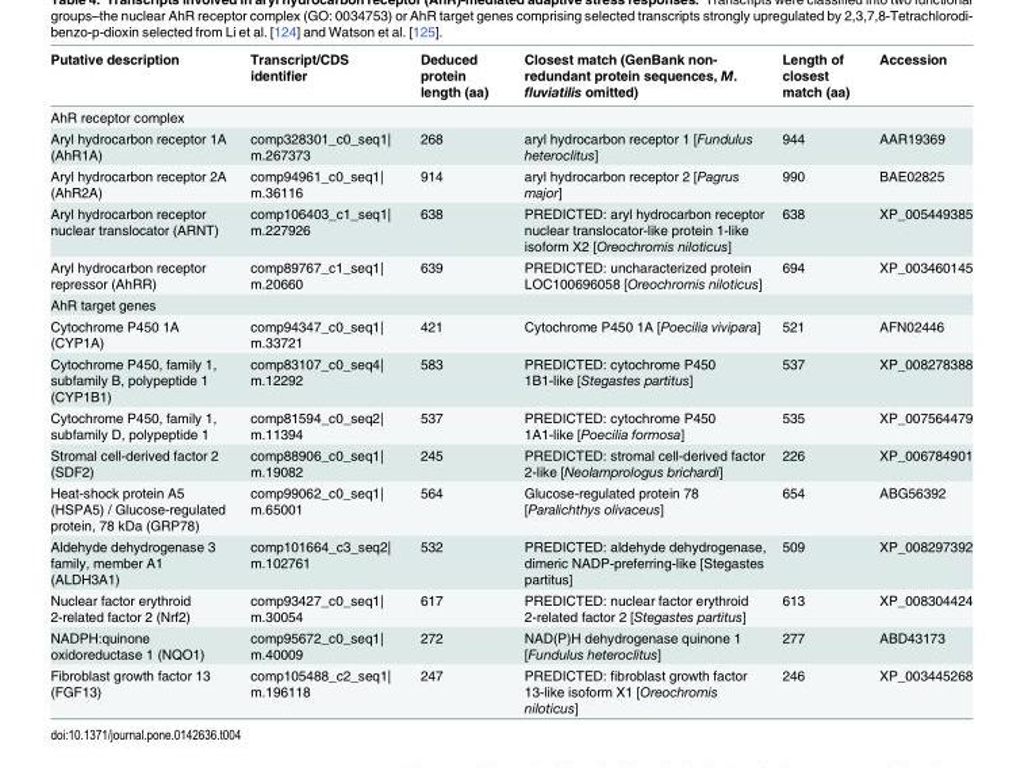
<table><thead><tr><td>Putative description</td><td>Transcript/CDS identifier</td><td>Deduced protein length (aa)</td><td>Closest match (GenBank non- redundant protein sequences, M. fluviatilis omitted)</td><td>Length of closest match (aa)</td><td>Accession</td></tr></thead><tbody><tr><td colspan="6">AhR receptor complex</td></tr><tr><td>Aryl hydrocarbon receptor 1A (AhR1A)</td><td>comp328301_c0_seq1| m.267373</td><td>268</td><td>aryl hydrocarbon receptor 1 [Fundulus heteroclitus]</td><td>944</td><td>AAR19369</td></tr><tr><td>Aryl hydrocarbon receptor 2A (AhR2A)</td><td>comp94961_c0_seq1| m.36116</td><td>914</td><td>aryl hydrocarbon receptor 2 [Pagrus major]</td><td>990</td><td>BAE02825</td></tr><tr><td>Aryl hydrocarbon receptor nuclear translocator (ARNT)</td><td>comp106403_c1_seq1| m.227926</td><td>638</td><td>PREDICTED: aryl hydrocarbon receptor nuclear translocator-like protein 1-like isoform X2 [Oreochromis niloticus]</td><td>638</td><td>XP_005449385</td></tr><tr><td>Aryl hydrocarbon receptor repressor (AhRR)</td><td>comp89767_c1_seq1| m.20660</td><td>639</td><td>PREDICTED: uncharacterized protein LOC100696058 [Oreochromis niloticus]</td><td>694</td><td>XP_003460145</td></tr><tr><td colspan="6">AhR target genes</td></tr><tr><td>Cytochrome P450 1A (CYP1A)</td><td>comp94347_c0_seq1| m.33721</td><td>421</td><td>Cytochrome P450 1A [Poecilia vivipara]</td><td>521</td><td>AFN02446</td></tr><tr><td>Cytochrome P450, family 1, subfamily B, polypeptide 1 (CYP1B1)</td><td>comp83107_c0_seq4| m.12292</td><td>583</td><td>PREDICTED: cytochrome P450 1B1-like [Stegastes partitus]</td><td>537</td><td>XP_008278388</td></tr><tr><td>Cytochrome P450, family 1, subfamily D, polypeptide 1</td><td>comp81594_c0_seq2| m.11394</td><td>537</td><td>PREDICTED: cytochrome P450 1A1-like [Poecilia formosa]</td><td>535</td><td>XP_007564479</td></tr><tr><td>Stromal cell-derived factor 2 (SDF2)</td><td>comp88906_c0_seq1| m.19082</td><td>245</td><td>PREDICTED: stromal cell-derived factor 2-like [Neolamprologus brichardi]</td><td>226</td><td>XP_006784901</td></tr><tr><td>Heat-shock protein A5 (HSPA5) / Glucose-regulated protein, 78 kDa (GRP78)</td><td>comp99062_c0_seq1| m.65001</td><td>564</td><td>Glucose-regulated protein 78 [Paralichthys olivaceus]</td><td>654</td><td>ABG56392</td></tr><tr><td>Aldehyde dehydrogenase 3 family, member A1 (ALDH3A1)</td><td>comp101664_c3_seq2| m.102761</td><td>532</td><td>PREDICTED: aldehyde dehydrogenase, dimeric NADP-preferring-like [Stegastes partitus]</td><td>509</td><td>XP_008297392</td></tr><tr><td>Nuclear factor erythroid 2-related factor 2 (Nrf2)</td><td>comp93427_c0_seq1| m.30054</td><td>617</td><td>PREDICTED: nuclear factor erythroid 2-related factor 2 [Stegastes partitus]</td><td>613</td><td>XP_008304424</td></tr><tr><td>NADPH:quinone oxidoreductase 1 (NQO1)</td><td>comp95672_c0_seq1| m.40009</td><td>272</td><td>NAD(P)H dehydrogenase quinone 1 [Fundulus heteroclitus]</td><td>277</td><td>ABD43173</td></tr><tr><td>Fibroblast growth factor 13 (FGF13)</td><td>comp105488_c2_seq1| m.196118</td><td>247</td><td>PREDICTED: fibroblast growth factor 13-like isoform X1 [Oreochromis niloticus]</td><td>246</td><td>XP_003445268</td></tr></tbody></table>